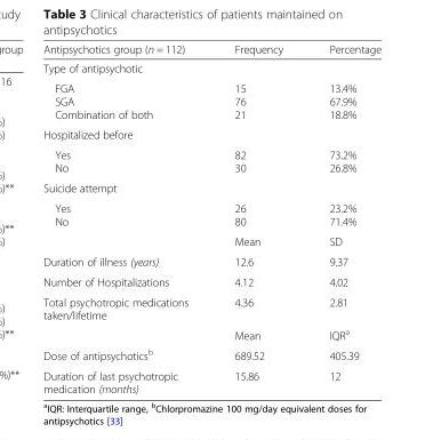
<table><thead><tr><td>Antipsychotics group (n = 112)</td><td>Frequency</td><td>Percentage</td></tr></thead><tbody><tr><td colspan="3">Type of antipsychotic</td></tr><tr><td>FGA SGA Combination of both</td><td>15 76 21</td><td>13.4% 67.9% 18.8%</td></tr><tr><td colspan="3">Hospitalized before</td></tr><tr><td>Yes No</td><td>82 30</td><td>73.2% 26.8%</td></tr><tr><td colspan="3">Suicide attempt</td></tr><tr><td rowspan="2">Yes No</td><td>26 80</td><td>23.2% 71.4%</td></tr><tr><td>Mean</td><td>SD</td></tr><tr><td>Duration of illness (years)</td><td>12.6</td><td>9.37</td></tr><tr><td>Number of Hospitalizations</td><td>4.12</td><td>4.02</td></tr><tr><td rowspan="2">Total psychotropic medications taken/lifetime</td><td>4.36</td><td>2.81</td></tr><tr><td>Mean</td><td>IQR<sup>a</sup></td></tr><tr><td>Dose of antipsychotics<sup>b</sup></td><td>689.52</td><td>405.39</td></tr><tr><td>Duration of last psychotropic medication (months)</td><td>15.86</td><td>12</td></tr></tbody></table>